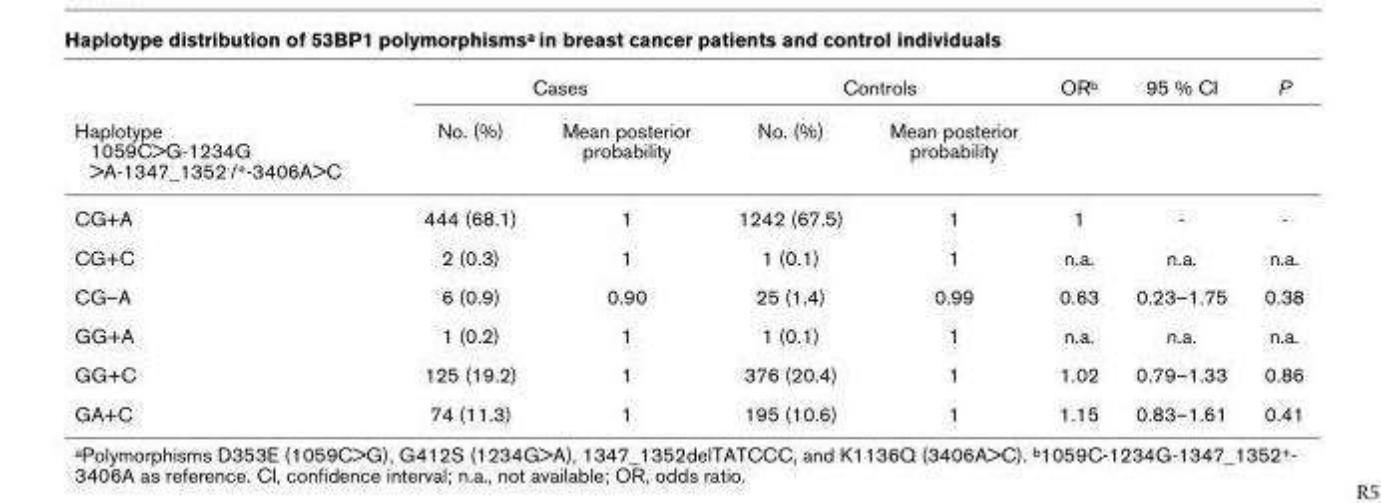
<table><thead><tr><td rowspan="2">Haplotype 1059C&gt;G-1234G &gt;A-1347_1352-/+-3406A&gt;C</td><td colspan="2">Cases</td><td colspan="2">Controls</td><td rowspan="2">ORb</td><td rowspan="2">95 % CI</td><td rowspan="2">P</td></tr><tr><td>No. (%)</td><td>Mean posterior probability</td><td>No. (%)</td><td>Mean posterior probability</td></tr></thead><tbody><tr><td>CG+A</td><td>444 (68.1)</td><td>1</td><td>1242 (67.5)</td><td>1</td><td>1</td><td>-</td><td>-</td></tr><tr><td>CG+C</td><td>2 (0.3)</td><td>1</td><td>1 (0.1)</td><td>1</td><td>n.a.</td><td>n.a.</td><td>n.a.</td></tr><tr><td>CG–A</td><td>6 (0.9)</td><td>0.90</td><td>25 (1.4)</td><td>0.99</td><td>0.63</td><td>0.23–1.75</td><td>0.38</td></tr><tr><td>GG+A</td><td>1 (0.2)</td><td>1</td><td>1 (0.1)</td><td>1</td><td>n.a.</td><td>n.a.</td><td>n.a.</td></tr><tr><td>GG+C</td><td>125 (19.2)</td><td>1</td><td>376 (20.4)</td><td>1</td><td>1.02</td><td>0.79–1.33</td><td>0.86</td></tr><tr><td>GA+C</td><td>74 (11.3)</td><td>1</td><td>195 (10.6)</td><td>1</td><td>1.15</td><td>0.83–1.61</td><td>0.41</td></tr></tbody></table>